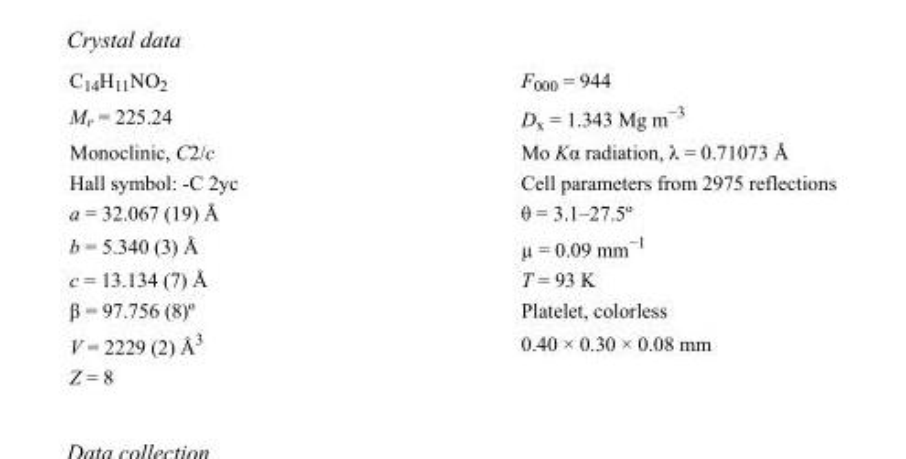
<table><tbody><tr><td>C<sub>14</sub>H<sub>11</sub>NO<sub>2</sub></td><td>F000 = 944</td></tr><tr><td>M<sub>r</sub> = 225.24</td><td>D<sub>x</sub> = 1.343 Mg m<sup>−3</sup></td></tr><tr><td>Monoclinic, C2/c</td><td>Mo Kα radiation, λ = 0.71073 Å</td></tr><tr><td>Hall symbol: -C 2yc</td><td>Cell parameters from 2975 reflections</td></tr><tr><td>a = 32.067 (19) Å</td><td>θ = 3.1–27.5º</td></tr><tr><td>b = 5.340 (3) Å</td><td>µ = 0.09 mm<sup>−1</sup></td></tr><tr><td>c = 13.134 (7) Å</td><td>T = 93 K</td></tr><tr><td>β = 97.756 (8)º</td><td>Platelet, colorless</td></tr><tr><td>V = 2229 (2) Å<sup>3</sup></td><td>0.40 × 0.30 × 0.08 mm</td></tr><tr><td>Z = 8</td><td></td></tr></tbody></table>